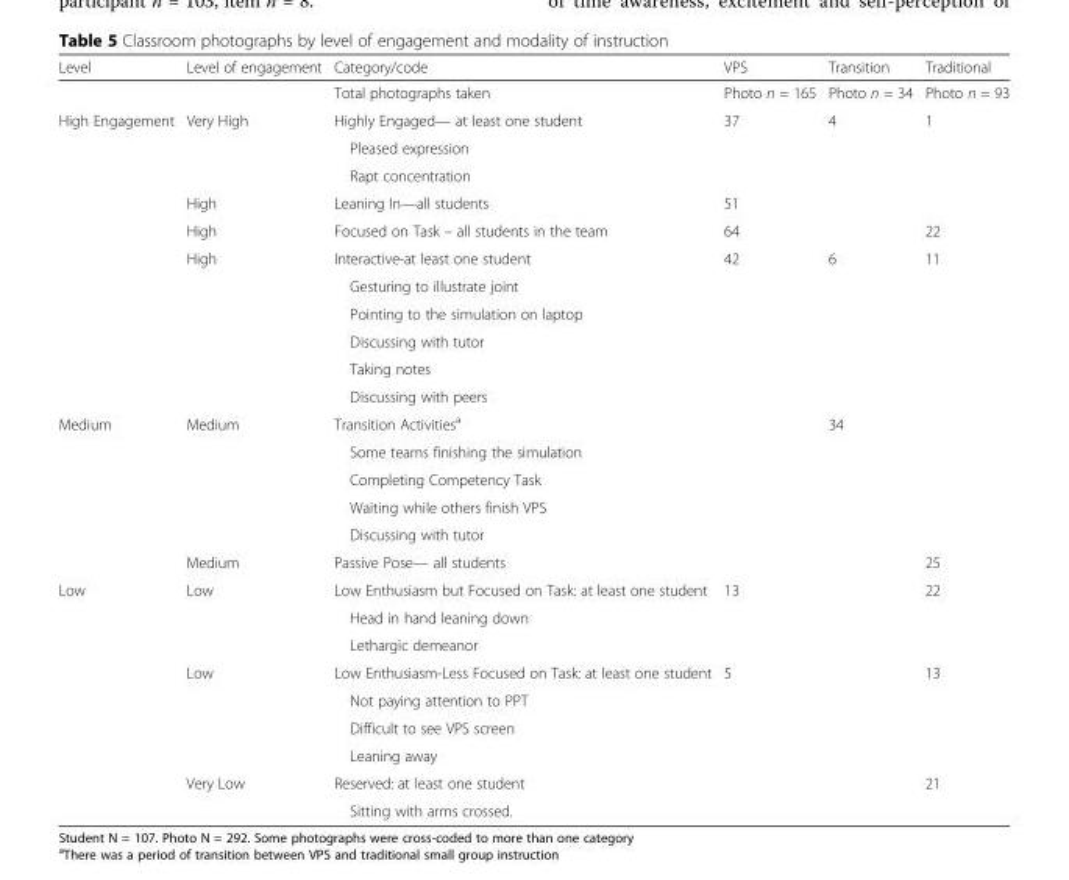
<table><thead><tr><td>Level</td><td>Level of engagement</td><td>Category/code</td><td>VPS</td><td>Transition</td><td>Traditional</td></tr></thead><tbody><tr><td></td><td></td><td>Total photographs taken</td><td>Photo n = 165</td><td>Photo n = 34</td><td>Photo n = 93</td></tr><tr><td rowspan="11">High Engagement</td><td rowspan="3">Very High</td><td>Highly Engaged— at least one student</td><td rowspan="3">37</td><td rowspan="3">4</td><td rowspan="3">1</td></tr><tr><td>Pleased expression</td></tr><tr><td>Rapt concentration</td></tr><tr><td>High</td><td>Leaning In—all students</td><td>51</td><td></td><td></td></tr><tr><td>High</td><td>Focused on Task – all students in the team</td><td>64</td><td></td><td>22</td></tr><tr><td rowspan="6">High</td><td>Interactive-at least one student</td><td rowspan="6">42</td><td rowspan="6">6</td><td rowspan="6">11</td></tr><tr><td>Gesturing to illustrate joint</td></tr><tr><td>Pointing to the simulation on laptop</td></tr><tr><td>Discussing with tutor</td></tr><tr><td>Taking notes</td></tr><tr><td>Discussing with peers</td></tr><tr><td rowspan="6">Medium</td><td rowspan="5">Medium</td><td>Transition Activities<sup>a</sup></td><td rowspan="5"></td><td rowspan="5">34</td><td rowspan="5"></td></tr><tr><td>Some teams finishing the simulation</td></tr><tr><td>Completing Competency Task</td></tr><tr><td>Waiting while others finish VPS</td></tr><tr><td>Discussing with tutor</td></tr><tr><td>Medium</td><td>Passive Pose— all students</td><td></td><td></td><td>25</td></tr><tr><td rowspan="9">Low</td><td rowspan="3">Low</td><td>Low Enthusiasm but Focused on Task: at least one student</td><td rowspan="3">13</td><td rowspan="3"></td><td rowspan="3">22</td></tr><tr><td>Head in hand leaning down</td></tr><tr><td>Lethargic demeanor</td></tr><tr><td rowspan="4">Low</td><td>Low Enthusiasm-Less Focused on Task: at least one student</td><td rowspan="4">5</td><td rowspan="4"></td><td rowspan="4">13</td></tr><tr><td>Not paying attention to PPT</td></tr><tr><td>Difficult to see VPS screen</td></tr><tr><td>Leaning away</td></tr><tr><td rowspan="2">Very Low</td><td>Reserved: at least one student</td><td rowspan="2"></td><td rowspan="2"></td><td rowspan="2">21</td></tr><tr><td>Sitting with arms crossed.</td></tr></tbody></table>